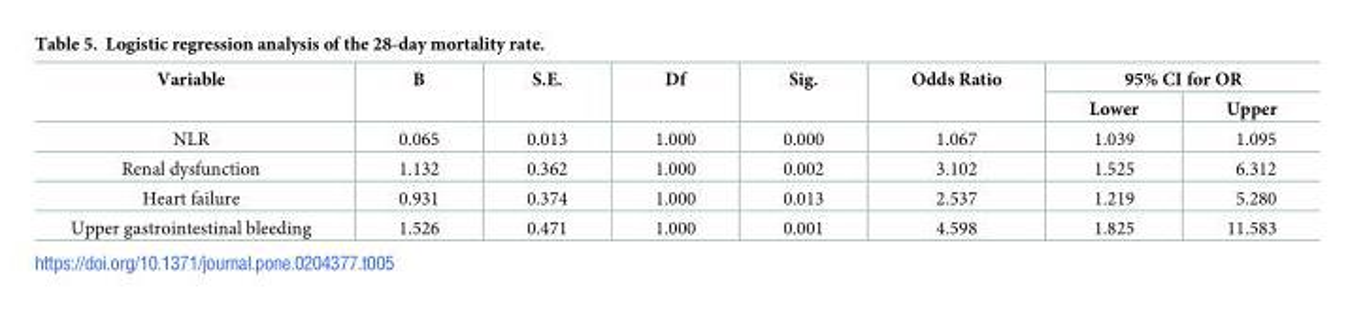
<table><thead><tr><td rowspan="2">Variable</td><td rowspan="2">B</td><td rowspan="2">S.E.</td><td rowspan="2">Df</td><td rowspan="2">Sig.</td><td rowspan="2">Odds Ratio</td><td colspan="2">95% CI for OR</td></tr><tr><td>Lower</td><td>Upper</td></tr></thead><tbody><tr><td>NLR</td><td>0.065</td><td>0.013</td><td>1.000</td><td>0.000</td><td>1.067</td><td>1.039</td><td>1.095</td></tr><tr><td>Renal dysfunction</td><td>1.132</td><td>0.362</td><td>1.000</td><td>0.002</td><td>3.102</td><td>1.525</td><td>6.312</td></tr><tr><td>Heart failure</td><td>0.931</td><td>0.374</td><td>1.000</td><td>0.013</td><td>2.537</td><td>1.219</td><td>5.280</td></tr><tr><td>Upper gastrointestinal bleeding</td><td>1.526</td><td>0.471</td><td>1.000</td><td>0.001</td><td>4.598</td><td>1.825</td><td>11.583</td></tr></tbody></table>